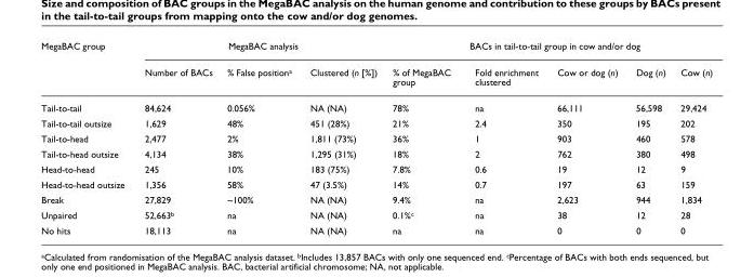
<table><thead><tr><td rowspan="2">MegaBAC group</td><td colspan="3">MegaBAC analysis</td><td colspan="5">BACs in tail-to-tail group in cow and/or dog</td></tr><tr><td>Number of BACs</td><td>% False position<sup>a</sup></td><td>Clustered (n [%])</td><td>% of MegaBAC group</td><td>Fold enrichment clustered</td><td>Cow or dog (n)</td><td>Dog (n)</td><td>Cow (n)</td></tr></thead><tbody><tr><td>Tail-to-tail</td><td>84,624</td><td>0.056%</td><td>NA (NA)</td><td>78%</td><td>na</td><td>66,111</td><td>56,598</td><td>29,424</td></tr><tr><td>Tail-to-tail outsize</td><td>1,629</td><td>48%</td><td>451 (28%)</td><td>21%</td><td>2.4</td><td>350</td><td>195</td><td>202</td></tr><tr><td>Tail-to-head</td><td>2,477</td><td>2%</td><td>1,811 (73%)</td><td>36%</td><td>1</td><td>903</td><td>460</td><td>578</td></tr><tr><td>Tail-to-head outsize</td><td>4,134</td><td>38%</td><td>1,295 (31%)</td><td>18%</td><td>2</td><td>762</td><td>380</td><td>498</td></tr><tr><td>Head-to-head</td><td>245</td><td>10%</td><td>183 (75%)</td><td>7.8%</td><td>0.6</td><td>19</td><td>12</td><td>9</td></tr><tr><td>Head-to-head outsize</td><td>1,356</td><td>58%</td><td>47 (3.5%)</td><td>14%</td><td>0.7</td><td>197</td><td>63</td><td>159</td></tr><tr><td>Break</td><td>27,829</td><td>~100%</td><td>NA (NA)</td><td>9.4%</td><td>na</td><td>2,623</td><td>944</td><td>1,834</td></tr><tr><td>Unpaired</td><td>52,663<sup>b</sup></td><td>na</td><td>NA (NA)</td><td>0.1%<sup>c</sup></td><td>na</td><td>38</td><td>12</td><td>28</td></tr><tr><td>No hits</td><td>18,113</td><td>na</td><td>NA (NA)</td><td>na</td><td>na</td><td>0</td><td>0</td><td>0</td></tr></tbody></table>